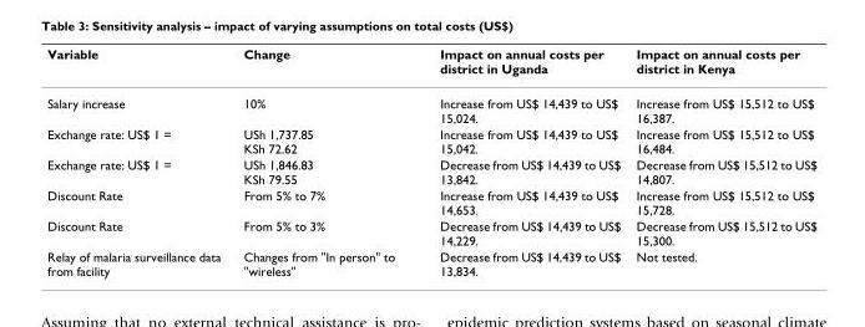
<table><thead><tr><td>Variable</td><td>Change</td><td>Impact on annual costs per district in Uganda</td><td>Impact on annual costs per district in Kenya</td></tr></thead><tbody><tr><td>Salary increase</td><td>10%</td><td>Increase from US$ 14,439 to US$ 15,024.</td><td>Increase from US$ 15,512 to US$ 16,387.</td></tr><tr><td>Exchange rate: US$ 1 =</td><td>USh 1,737.85 KSh 72.62</td><td>Increase from US$ 14,439 to US$ 15,042.</td><td>Increase from US$ 15,512 to US$ 16,484.</td></tr><tr><td>Exchange rate: US$ 1 =</td><td>USh 1,846.83 KSh 79.55</td><td>Decrease from US$ 14,439 to US$ 13,842.</td><td>Decrease from US$ 15,512 to US$ 14,807.</td></tr><tr><td>Discount Rate</td><td>From 5% to 7%</td><td>Increase from US$ 14,439 to US$ 14,653.</td><td>Increase from US$ 15,512 to US$ 15,728.</td></tr><tr><td>Discount Rate</td><td>From 5% to 3%</td><td>Decrease from US$ 14,439 to US$ 14,229.</td><td>Decrease from US$ 15,512 to US$ 15,300.</td></tr><tr><td>Relay of malaria surveillance data from facility</td><td>Changes from &quot;In person&quot; to &quot;wireless&quot;</td><td>Decrease from US$ 14,439 to US$ 13,834.</td><td>Not tested.</td></tr></tbody></table>